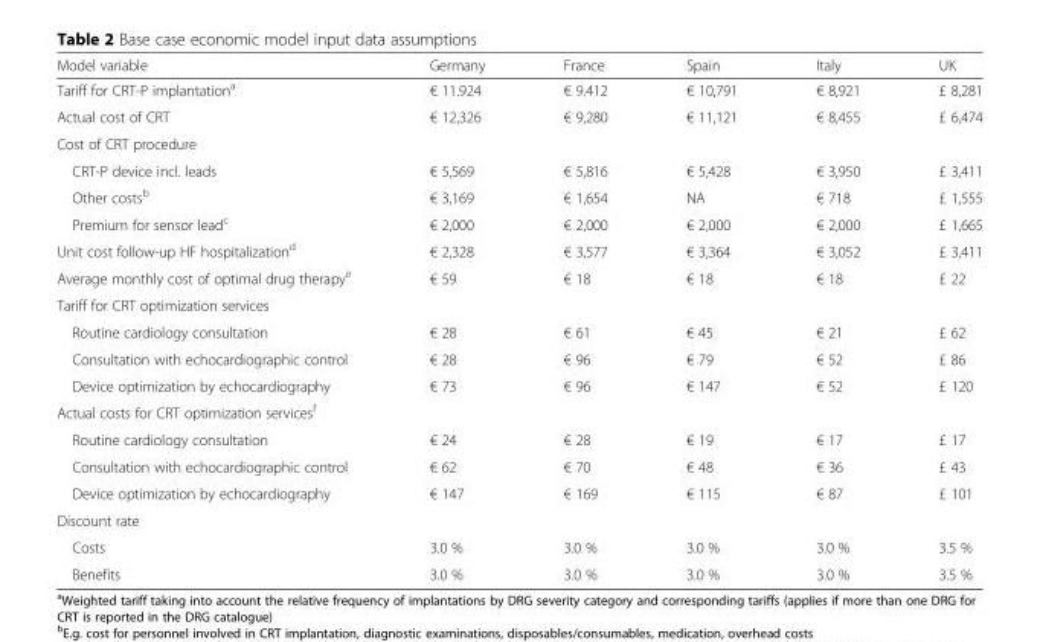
<table><thead><tr><td>Model variable</td><td>Germany</td><td>France</td><td>Spain</td><td>Italy</td><td>UK</td></tr></thead><tbody><tr><td>Tariff for CRT-P implantation<sup>a</sup></td><td>€ 11.924</td><td>€ 9.412</td><td>€ 10,791</td><td>€ 8,921</td><td>£ 8,281</td></tr><tr><td>Actual cost of CRT</td><td>€ 12,326</td><td>€ 9,280</td><td>€ 11,121</td><td>€ 8,455</td><td>£ 6,474</td></tr><tr><td colspan="6">Cost of CRT procedure</td></tr><tr><td>CRT-P device incl. leads</td><td>€ 5,569</td><td>€ 5,816</td><td>€ 5,428</td><td>€ 3,950</td><td>£ 3,411</td></tr><tr><td>Other costs<sup>b</sup></td><td>€ 3,169</td><td>€ 1,654</td><td>NA</td><td>€ 718</td><td>£ 1,555</td></tr><tr><td>Premium for sensor lead<sup>c</sup></td><td>€ 2,000</td><td>€ 2,000</td><td>€ 2,000</td><td>€ 2,000</td><td>£ 1,665</td></tr><tr><td>Unit cost follow-up HF hospitalization<sup>d</sup></td><td>€ 2,328</td><td>€ 3,577</td><td>€ 3,364</td><td>€ 3,052</td><td>£ 3,411</td></tr><tr><td>Average monthly cost of optimal drug therapy<sup>e</sup></td><td>€ 59</td><td>€ 18</td><td>€ 18</td><td>€ 18</td><td>£ 22</td></tr><tr><td colspan="6">Tariff for CRT optimization services</td></tr><tr><td>Routine cardiology consultation</td><td>€ 28</td><td>€ 61</td><td>€ 45</td><td>€ 21</td><td>£ 62</td></tr><tr><td>Consultation with echocardiographic control</td><td>€ 28</td><td>€ 96</td><td>€ 79</td><td>€ 52</td><td>£ 86</td></tr><tr><td>Device optimization by echocardiography</td><td>€ 73</td><td>€ 96</td><td>€ 147</td><td>€ 52</td><td>£ 120</td></tr><tr><td colspan="6">Actual costs for CRT optimization services<sup>f</sup></td></tr><tr><td>Routine cardiology consultation</td><td>€ 24</td><td>€ 28</td><td>€ 19</td><td>€ 17</td><td>£ 17</td></tr><tr><td>Consultation with echocardiographic control</td><td>€ 62</td><td>€ 70</td><td>€ 48</td><td>€ 36</td><td>£ 43</td></tr><tr><td>Device optimization by echocardiography</td><td>€ 147</td><td>€ 169</td><td>€ 115</td><td>€ 87</td><td>£ 101</td></tr><tr><td colspan="6">Discount rate</td></tr><tr><td>Costs</td><td>3.0 %</td><td>3.0 %</td><td>3.0 %</td><td>3.0 %</td><td>3.5 %</td></tr><tr><td>Benefits</td><td>3.0 %</td><td>3.0 %</td><td>3.0 %</td><td>3.0 %</td><td>3.5 %</td></tr></tbody></table>